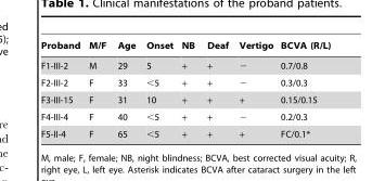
<table><thead><tr><td>Proband</td><td>M/F</td><td>Age</td><td>Onset</td><td>NB</td><td>Deaf</td><td>Vertigo</td><td>BCVA (R/L)</td></tr></thead><tbody><tr><td>F1-III-2</td><td>M</td><td>29</td><td>5</td><td>+</td><td>+</td><td>−</td><td>0.7/0.8</td></tr><tr><td>F2-III-2</td><td>F</td><td>33</td><td>&lt;5</td><td>+</td><td>+</td><td>−</td><td>0.3/0.3</td></tr><tr><td>F3-III-15</td><td>F</td><td>31</td><td>10</td><td>+</td><td>+</td><td>+</td><td>0.15/0.15</td></tr><tr><td>F4-III-4</td><td>F</td><td>40</td><td>&lt;5</td><td>+</td><td>+</td><td>−</td><td>0.2/0.3</td></tr><tr><td>F5-II-4</td><td>F</td><td>65</td><td>&lt;5</td><td>+</td><td>+</td><td>+</td><td>FC/0.1*</td></tr></tbody></table>